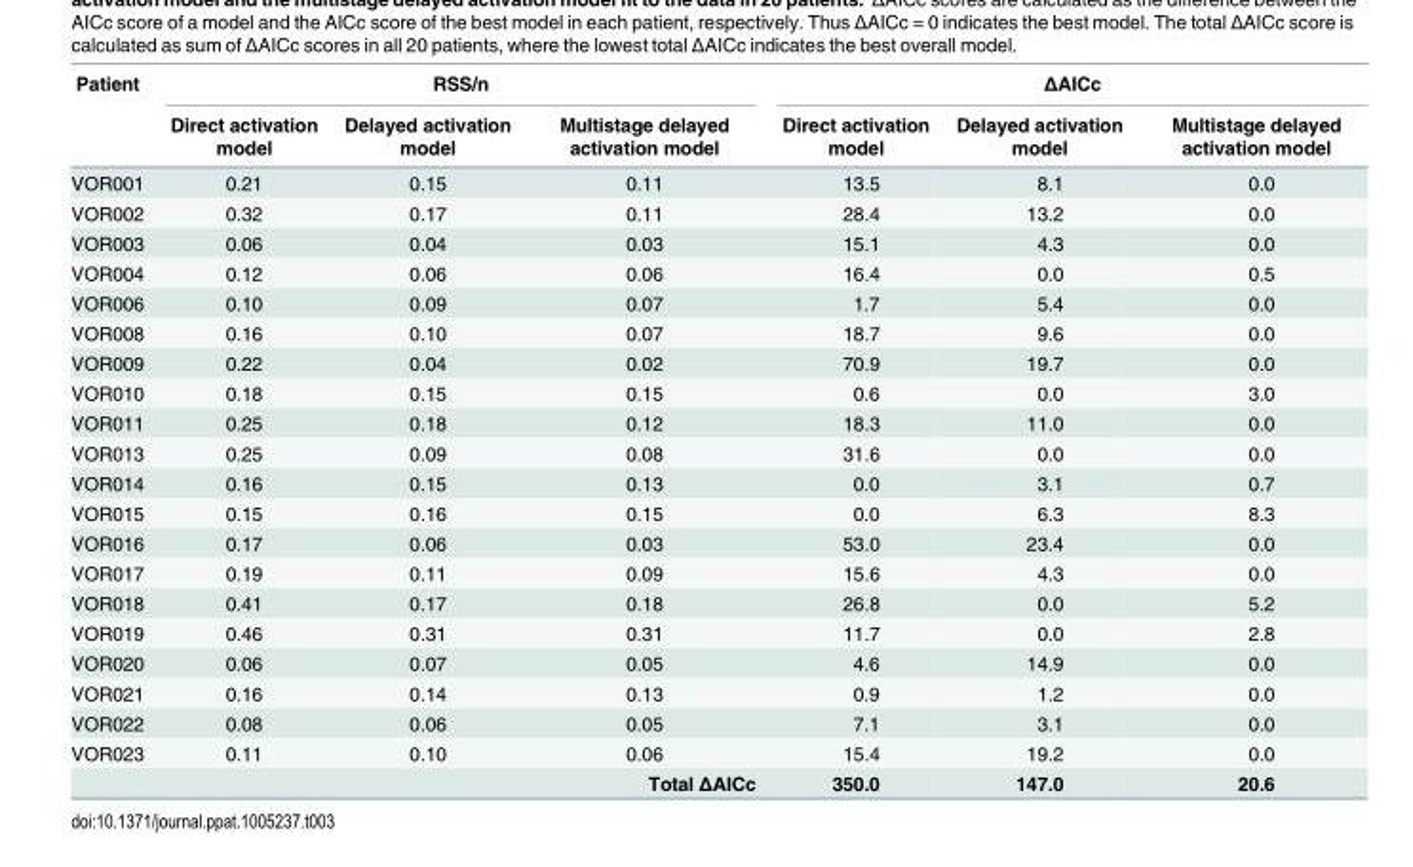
<table><thead><tr><td rowspan="2">Patient</td><td colspan="3">RSS/n</td><td colspan="3">ΔAICc</td></tr><tr><td>Direct activation model</td><td>Delayed activation model</td><td>Multistage delayed activation model</td><td>Direct activation model</td><td>Delayed activation model</td><td>Multistage delayed activation model</td></tr></thead><tbody><tr><td>VOR001</td><td>0.21</td><td>0.15</td><td>0.11</td><td>13.5</td><td>8.1</td><td>0.0</td></tr><tr><td>VOR002</td><td>0.32</td><td>0.17</td><td>0.11</td><td>28.4</td><td>13.2</td><td>0.0</td></tr><tr><td>VOR003</td><td>0.06</td><td>0.04</td><td>0.03</td><td>15.1</td><td>4.3</td><td>0.0</td></tr><tr><td>VOR004</td><td>0.12</td><td>0.06</td><td>0.06</td><td>16.4</td><td>0.0</td><td>0.5</td></tr><tr><td>VOR006</td><td>0.10</td><td>0.09</td><td>0.07</td><td>1.7</td><td>5.4</td><td>0.0</td></tr><tr><td>VOR008</td><td>0.16</td><td>0.10</td><td>0.07</td><td>18.7</td><td>9.6</td><td>0.0</td></tr><tr><td>VOR009</td><td>0.22</td><td>0.04</td><td>0.02</td><td>70.9</td><td>19.7</td><td>0.0</td></tr><tr><td>VOR010</td><td>0.18</td><td>0.15</td><td>0.15</td><td>0.6</td><td>0.0</td><td>3.0</td></tr><tr><td>VOR011</td><td>0.25</td><td>0.18</td><td>0.12</td><td>18.3</td><td>11.0</td><td>0.0</td></tr><tr><td>VOR013</td><td>0.25</td><td>0.09</td><td>0.08</td><td>31.6</td><td>0.0</td><td>0.0</td></tr><tr><td>VOR014</td><td>0.16</td><td>0.15</td><td>0.13</td><td>0.0</td><td>3.1</td><td>0.7</td></tr><tr><td>VOR015</td><td>0.15</td><td>0.16</td><td>0.15</td><td>0.0</td><td>6.3</td><td>8.3</td></tr><tr><td>VOR016</td><td>0.17</td><td>0.06</td><td>0.03</td><td>53.0</td><td>23.4</td><td>0.0</td></tr><tr><td>VOR017</td><td>0.19</td><td>0.11</td><td>0.09</td><td>15.6</td><td>4.3</td><td>0.0</td></tr><tr><td>VOR018</td><td>0.41</td><td>0.17</td><td>0.18</td><td>26.8</td><td>0.0</td><td>5.2</td></tr><tr><td>VOR019</td><td>0.46</td><td>0.31</td><td>0.31</td><td>11.7</td><td>0.0</td><td>2.8</td></tr><tr><td>VOR020</td><td>0.06</td><td>0.07</td><td>0.05</td><td>4.6</td><td>14.9</td><td>0.0</td></tr><tr><td>VOR021</td><td>0.16</td><td>0.14</td><td>0.13</td><td>0.9</td><td>1.2</td><td>0.0</td></tr><tr><td>VOR022</td><td>0.08</td><td>0.06</td><td>0.05</td><td>7.1</td><td>3.1</td><td>0.0</td></tr><tr><td>VOR023</td><td>0.11</td><td>0.10</td><td>0.06</td><td>15.4</td><td>19.2</td><td>0.0</td></tr><tr><td colspan="4">Total ΔAICc</td><td>350.0</td><td>147.0</td><td>20.6</td></tr></tbody></table>